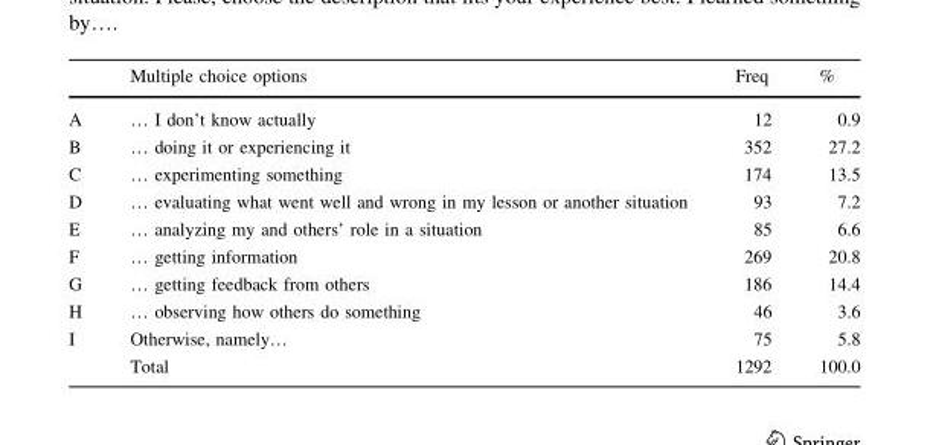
<table><thead><tr><td></td><td>Multiple choice options</td><td>Freq</td><td>%</td></tr></thead><tbody><tr><td>A</td><td>… I don’t know actually</td><td>12</td><td>0.9</td></tr><tr><td>B</td><td>… doing it or experiencing it</td><td>352</td><td>27.2</td></tr><tr><td>C</td><td>… experimenting something</td><td>174</td><td>13.5</td></tr><tr><td>D</td><td>… evaluating what went well and wrong in my lesson or another situation</td><td>93</td><td>7.2</td></tr><tr><td>E</td><td>… analyzing my and others’ role in a situation</td><td>85</td><td>6.6</td></tr><tr><td>F</td><td>… getting information</td><td>269</td><td>20.8</td></tr><tr><td>G</td><td>… getting feedback from others</td><td>186</td><td>14.4</td></tr><tr><td>H</td><td>… observing how others do something</td><td>46</td><td>3.6</td></tr><tr><td rowspan="2">I</td><td>Otherwise, namely…</td><td>75</td><td>5.8</td></tr><tr><td>Total</td><td>1292</td><td>100.0</td></tr></tbody></table>